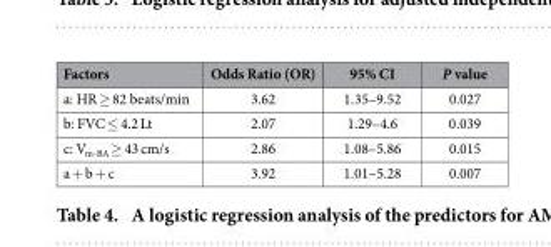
<table><thead><tr><td>Factors</td><td>Odds Ratio (OR)</td><td>95% CI</td><td>P value</td></tr></thead><tbody><tr><td>a: HR ≥ 82 beats/min</td><td>3.62</td><td>1.35–9.52</td><td>0.027</td></tr><tr><td>b: FVC ≤ 4.2 Lt</td><td>2.07</td><td>1.29–4.6</td><td>0.039</td></tr><tr><td>c: V<sub>m-BA</sub> ≥ 43 cm/s</td><td>2.86</td><td>1.08–5.86</td><td>0.015</td></tr><tr><td>a + b + c</td><td>3.92</td><td>1.01–5.28</td><td>0.007</td></tr></tbody></table>